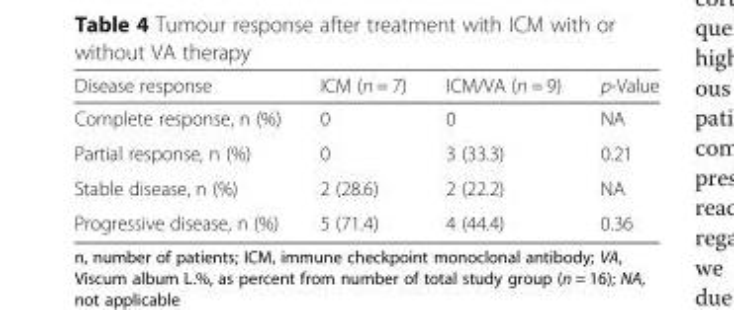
<table><thead><tr><td>Disease response</td><td>ICM (n = 7)</td><td>ICM/VA (n = 9)</td><td>p-Value</td></tr></thead><tbody><tr><td>Complete response, n (%)</td><td>0</td><td>0</td><td>NA</td></tr><tr><td>Partial response, n (%)</td><td>0</td><td>3 (33.3)</td><td>0.21</td></tr><tr><td>Stable disease, n (%)</td><td>2 (28.6)</td><td>2 (22.2)</td><td>NA</td></tr><tr><td>Progressive disease, n (%)</td><td>5 (71.4)</td><td>4 (44.4)</td><td>0.36</td></tr></tbody></table>